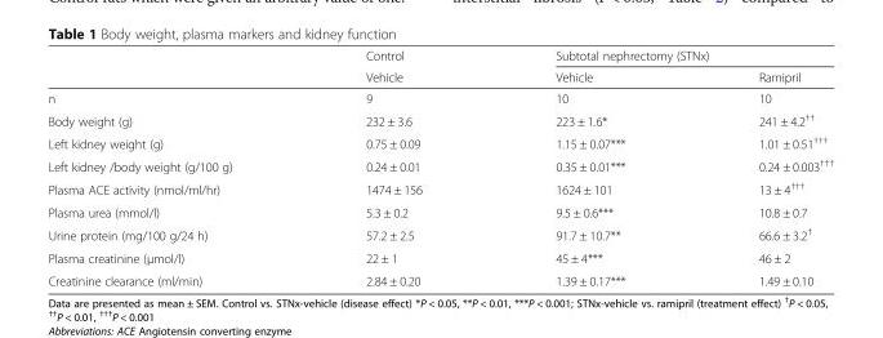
<table><thead><tr><td rowspan="2"></td><td rowspan="2">Control Vehicle</td><td colspan="2">Subtotal nephrectomy (STNx)</td></tr><tr><td>Vehicle</td><td>Ramipril</td></tr></thead><tbody><tr><td>n</td><td>9</td><td>10</td><td>10</td></tr><tr><td>Body weight (g)</td><td>232 ± 3.6</td><td>223 ± 1.6*</td><td>241 ± 4.2<sup>††</sup></td></tr><tr><td>Left kidney weight (g)</td><td>0.75 ± 0.09</td><td>1.15 ± 0.07***</td><td>1.01 ± 0.51<sup>†††</sup></td></tr><tr><td>Left kidney /body weight (g/100 g)</td><td>0.24 ± 0.01</td><td>0.35 ± 0.01***</td><td>0.24 ± 0.003<sup>†††</sup></td></tr><tr><td>Plasma ACE activity (nmol/ml/hr)</td><td>1474 ± 156</td><td>1624 ± 101</td><td>13 ± 4<sup>†††</sup></td></tr><tr><td>Plasma urea (mmol/l)</td><td>5.3 ± 0.2</td><td>9.5 ± 0.6***</td><td>10.8 ± 0.7</td></tr><tr><td>Urine protein (mg/100 g/24 h)</td><td>57.2 ± 2.5</td><td>91.7 ± 10.7**</td><td>66.6 ± 3.2<sup>†</sup></td></tr><tr><td>Plasma creatinine (μmol/l)</td><td>22 ± 1</td><td>45 ± 4***</td><td>46 ± 2</td></tr><tr><td>Creatinine clearance (ml/min)</td><td>2.84 ± 0.20</td><td>1.39 ± 0.17***</td><td>1.49 ± 0.10</td></tr></tbody></table>